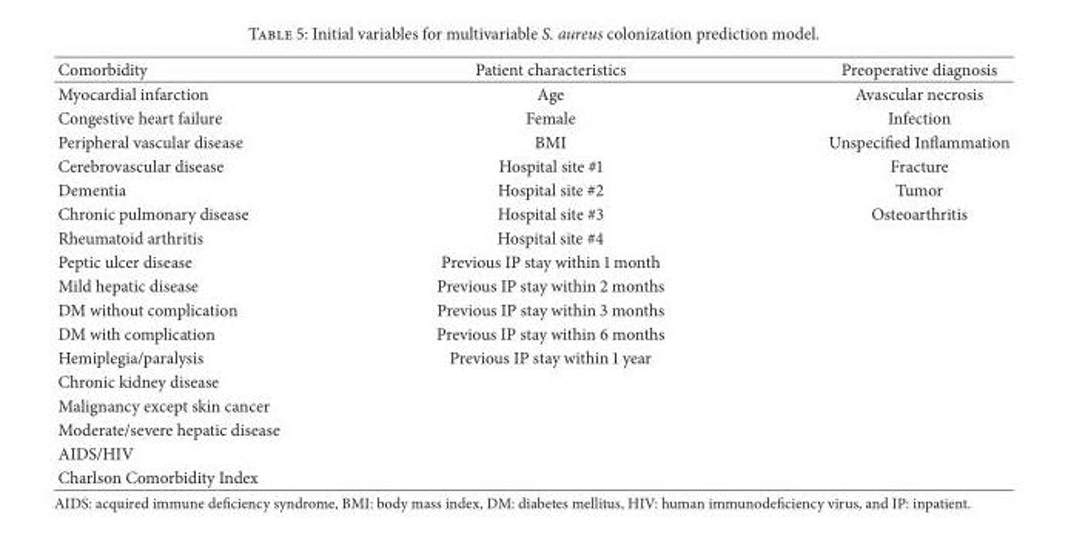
<table><thead><tr><td>Comorbidity</td><td>Patient characteristics</td><td>Preoperative diagnosis</td></tr></thead><tbody><tr><td>Myocardial infarction</td><td>Age</td><td>Avascular necrosis</td></tr><tr><td>Congestive heart failure</td><td>Female</td><td>Infection</td></tr><tr><td>Peripheral vascular disease</td><td>BMI</td><td>Unspecified Inflammation</td></tr><tr><td>Cerebrovascular disease</td><td>Hospital site #1</td><td>Fracture</td></tr><tr><td>Dementia</td><td>Hospital site #2</td><td>Tumor</td></tr><tr><td>Chronic pulmonary disease</td><td>Hospital site #3</td><td>Osteoarthritis</td></tr><tr><td>Rheumatoid arthritis</td><td>Hospital site #4</td><td></td></tr><tr><td>Peptic ulcer disease</td><td>Previous IP stay within 1 month</td><td></td></tr><tr><td>Mild hepatic disease</td><td>Previous IP stay within 2 months</td><td></td></tr><tr><td>DM without complication</td><td>Previous IP stay within 3 months</td><td></td></tr><tr><td>DM with complication</td><td>Previous IP stay within 6 months</td><td></td></tr><tr><td>Hemiplegia/paralysis</td><td>Previous IP stay within 1 year</td><td></td></tr><tr><td colspan="3">Chronic kidney disease</td></tr><tr><td colspan="3">Malignancy except skin cancer</td></tr><tr><td colspan="3">Moderate/severe hepatic disease</td></tr><tr><td colspan="3">AIDS/HIV</td></tr><tr><td>Charlson Comorbidity Index</td><td></td><td></td></tr></tbody></table>